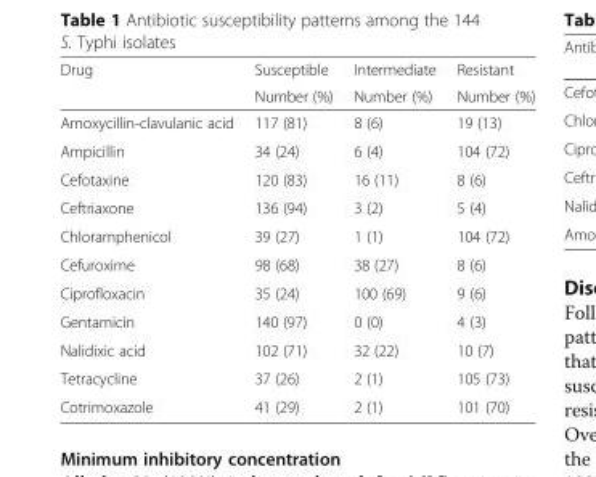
<table><thead><tr><td rowspan="2">Drug</td><td rowspan="2">Susceptible Number (%)</td><td rowspan="2">Intermediate Number (%)</td><td rowspan="2">Resistant Number (%)</td></tr><tr></tr></thead><tbody><tr><td>Amoxycillin-clavulanic acid</td><td>117 (81)</td><td>8 (6)</td><td>19 (13)</td></tr><tr><td>Ampicillin</td><td>34 (24)</td><td>6 (4)</td><td>104 (72)</td></tr><tr><td>Cefotaxine</td><td>120 (83)</td><td>16 (11)</td><td>8 (6)</td></tr><tr><td>Ceftriaxone</td><td>136 (94)</td><td>3 (2)</td><td>5 (4)</td></tr><tr><td>Chloramphenicol</td><td>39 (27)</td><td>1 (1)</td><td>104 (72)</td></tr><tr><td>Cefuroxime</td><td>98 (68)</td><td>38 (27)</td><td>8 (6)</td></tr><tr><td>Ciprofloxacin</td><td>35 (24)</td><td>100 (69)</td><td>9 (6)</td></tr><tr><td>Gentamicin</td><td>140 (97)</td><td>0 (0)</td><td>4 (3)</td></tr><tr><td>Nalidixic acid</td><td>102 (71)</td><td>32 (22)</td><td>10 (7)</td></tr><tr><td>Tetracycline</td><td>37 (26)</td><td>2 (1)</td><td>105 (73)</td></tr><tr><td>Cotrimoxazole</td><td>41 (29)</td><td>2 (1)</td><td>101 (70)</td></tr></tbody></table>